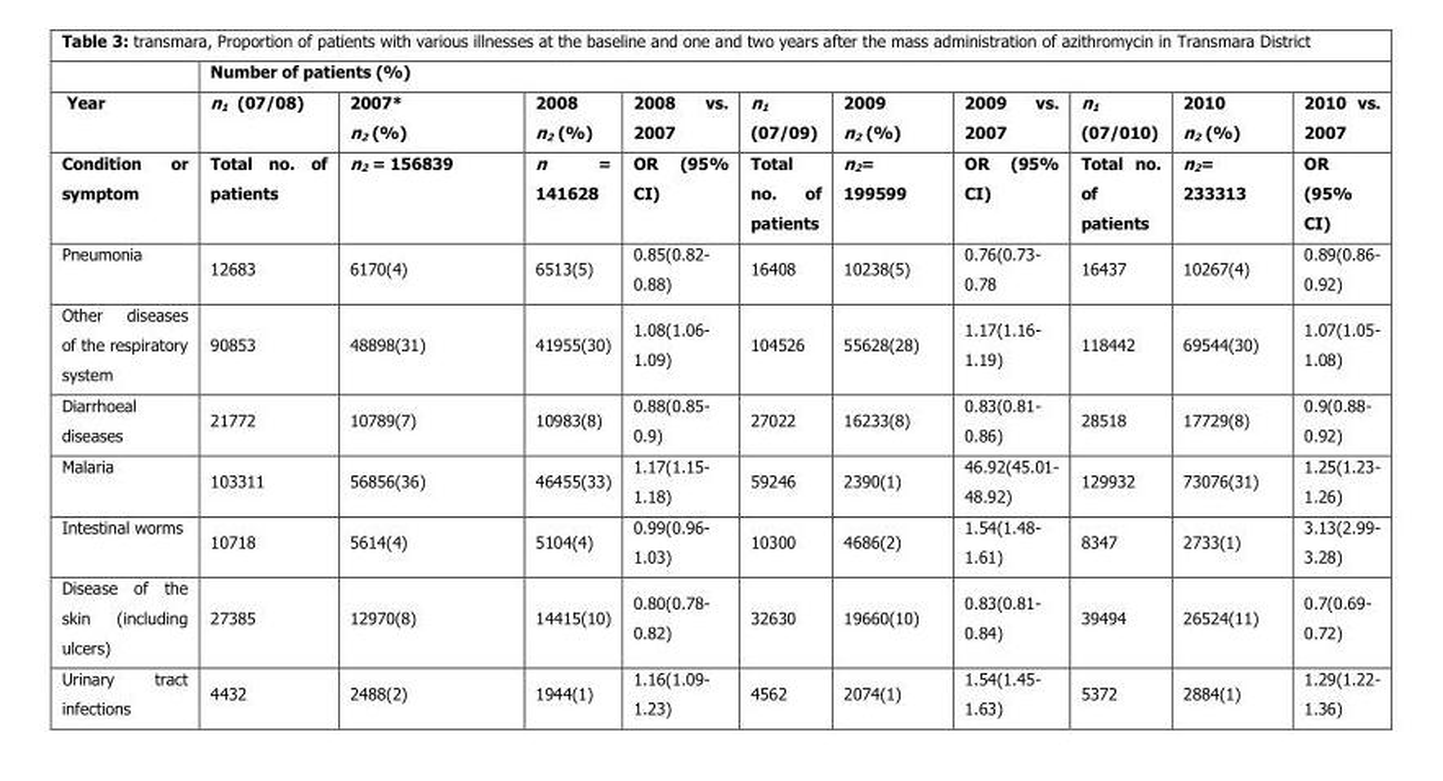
<table><thead><tr><td rowspan="3">Year Condition or symptom</td><td colspan="10">Number of patients (%)</td></tr><tr><td rowspan="2">n<sub>1</sub> (07/08) Total no. of patients</td><td rowspan="2">2007* n<sub>2</sub> (%) n<sub>2</sub> = 156839</td><td rowspan="2">2008 n<sub>2</sub> (%) n = 141628</td><td rowspan="2">2008 vs. 2007 OR (95% CI)</td><td rowspan="2">n<sub>1</sub> (07/09) Total no. of patients</td><td rowspan="2">2009 n<sub>2</sub> (%) n<sub>2</sub>= 199599</td><td rowspan="2">2009 vs. 2007 OR (95% CI)</td><td rowspan="2">n<sub>1</sub> (07/010) Total no. of patients</td><td rowspan="2">2010 n<sub>2</sub> (%) n<sub>2</sub>= 233313</td><td rowspan="2">2010 vs. 2007 OR (95% CI)</td></tr><tr></tr></thead><tbody><tr><td>Pneumonia</td><td>12683</td><td>6170(4)</td><td>6513(5)</td><td>0.85(0.82- 0.88)</td><td>16408</td><td>10238(5)</td><td>0.76(0.73- 0.78</td><td>16437</td><td>10267(4)</td><td>0.89(0.86- 0.92)</td></tr><tr><td>Other diseases of the respiratory system</td><td>90853</td><td>48898(31)</td><td>41955(30)</td><td>1.08(1.06- 1.09)</td><td>104526</td><td>55628(28)</td><td>1.17(1.16- 1.19)</td><td>118442</td><td>69544(30)</td><td>1.07(1.05- 1.08)</td></tr><tr><td>Diarrhoeal diseases</td><td>21772</td><td>10789(7)</td><td>10983(8)</td><td>0.88(0.85- 0.9)</td><td>27022</td><td>16233(8)</td><td>0.83(0.81- 0.86)</td><td>28518</td><td>17729(8)</td><td>0.9(0.88- 0.92)</td></tr><tr><td>Malaria</td><td>103311</td><td>56856(36)</td><td>46455(33)</td><td>1.17(1.15- 1.18)</td><td>59246</td><td>2390(1)</td><td>46.92(45.01- 48.92)</td><td>129932</td><td>73076(31)</td><td>1.25(1.23- 1.26)</td></tr><tr><td>Intestinal worms</td><td>10718</td><td>5614(4)</td><td>5104(4)</td><td>0.99(0.96- 1.03)</td><td>10300</td><td>4686(2)</td><td>1.54(1.48- 1.61)</td><td>8347</td><td>2733(1)</td><td>3.13(2.99- 3.28)</td></tr><tr><td>Disease of the skin (including ulcers)</td><td>27385</td><td>12970(8)</td><td>14415(10)</td><td>0.80(0.78- 0.82)</td><td>32630</td><td>19660(10)</td><td>0.83(0.81- 0.84)</td><td>39494</td><td>26524(11)</td><td>0.7(0.69- 0.72)</td></tr><tr><td>Urinary tract infections</td><td>4432</td><td>2488(2)</td><td>1944(1)</td><td>1.16(1.09- 1.23)</td><td>4562</td><td>2074(1)</td><td>1.54(1.45- 1.63)</td><td>5372</td><td>2884(1)</td><td>1.29(1.22- 1.36)</td></tr></tbody></table>